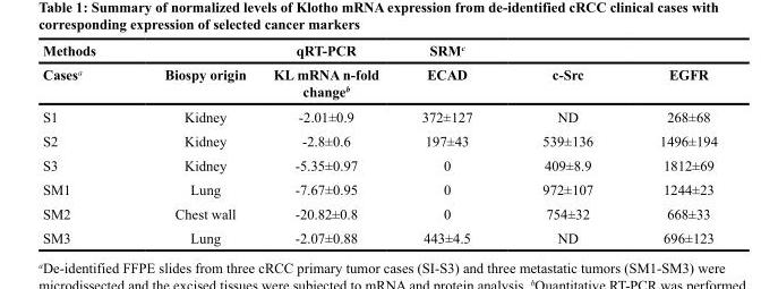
<table><thead><tr><td rowspan="2">Methods Cases<sup>a</sup></td><td rowspan="2">Biospy origin</td><td rowspan="2">qRT-PCR KL mRNA n-fold change<sup>b</sup></td><td rowspan="2">SRM<sup>c</sup> ECAD</td><td rowspan="2">c-Src</td><td rowspan="2">EGFR</td></tr><tr></tr></thead><tbody><tr><td>S1</td><td>Kidney</td><td>-2.01±0.9</td><td>372±127</td><td>ND</td><td>268±68</td></tr><tr><td>S2</td><td>Kidney</td><td>-2.8±0.6</td><td>197±43</td><td>539±136</td><td>1496±194</td></tr><tr><td>S3</td><td>Kidney</td><td>-5.35±0.97</td><td>0</td><td>409±8.9</td><td>1812±69</td></tr><tr><td>SM1</td><td>Lung</td><td>-7.67±0.95</td><td>0</td><td>972±107</td><td>1244±23</td></tr><tr><td>SM2</td><td>Chest wall</td><td>-20.82±0.8</td><td>0</td><td>754±32</td><td>668±33</td></tr><tr><td>SM3</td><td>Lung</td><td>-2.07±0.88</td><td>443±4.5</td><td>ND</td><td>696±123</td></tr></tbody></table>